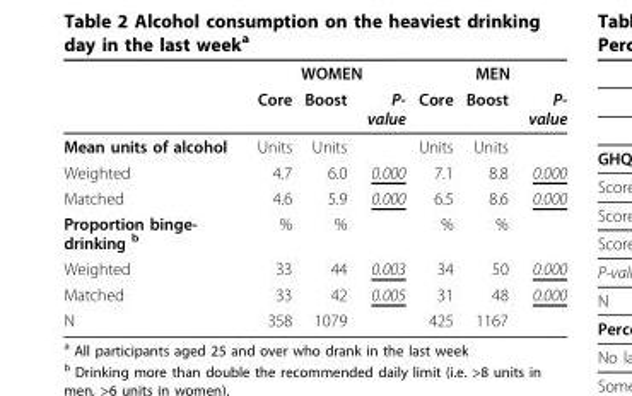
<table><thead><tr><td rowspan="2"></td><td colspan="3">WOMEN</td><td colspan="3">MEN</td></tr><tr><td>Core</td><td>Boost</td><td>P- value</td><td>Core</td><td>Boost</td><td>P- value</td></tr></thead><tbody><tr><td>Mean units of alcohol</td><td>Units</td><td>Units</td><td></td><td>Units</td><td>Units</td><td></td></tr><tr><td>Weighted</td><td>4.7</td><td>6.0</td><td>0.000</td><td>7.1</td><td>8.8</td><td>0.000</td></tr><tr><td>Matched</td><td>4.6</td><td>5.9</td><td>0.000</td><td>6.5</td><td>8.6</td><td>0.000</td></tr><tr><td>Proportion binge- drinking <sup>b</sup></td><td>%</td><td>%</td><td></td><td>%</td><td>%</td><td></td></tr><tr><td>Weighted</td><td>33</td><td>44</td><td>0.003</td><td>34</td><td>50</td><td>0.000</td></tr><tr><td>Matched</td><td>33</td><td>42</td><td>0.005</td><td>31</td><td>48</td><td>0.000</td></tr><tr><td>N</td><td>358</td><td>1079</td><td></td><td>425</td><td>1167</td><td></td></tr></tbody></table>